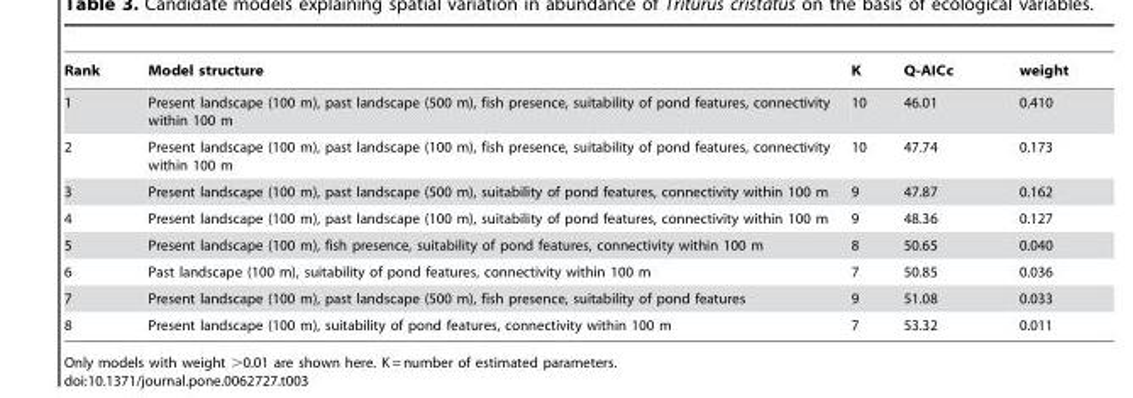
<table><thead><tr><td>Rank</td><td>Model structure</td><td>K</td><td>Q-AICc</td><td>weight</td></tr></thead><tbody><tr><td>1</td><td>Present landscape (100 m), past landscape (500 m), fish presence, suitability of pond features, connectivity within 100 m</td><td>10</td><td>46.01</td><td>0.410</td></tr><tr><td>2</td><td>Present landscape (100 m), past landscape (100 m), fish presence, suitability of pond features, connectivity within 100 m</td><td>10</td><td>47.74</td><td>0.173</td></tr><tr><td>3</td><td>Present landscape (100 m), past landscape (500 m), suitability of pond features, connectivity within 100 m</td><td>9</td><td>47.87</td><td>0.162</td></tr><tr><td>4</td><td>Present landscape (100 m), past landscape (100 m), suitability of pond features, connectivity within 100 m</td><td>9</td><td>48.36</td><td>0.127</td></tr><tr><td>5</td><td>Present landscape (100 m), fish presence, suitability of pond features, connectivity within 100 m</td><td>8</td><td>50.65</td><td>0.040</td></tr><tr><td>6</td><td>Past landscape (100 m), suitability of pond features, connectivity within 100 m</td><td>7</td><td>50.85</td><td>0.036</td></tr><tr><td>7</td><td>Present landscape (100 m), past landscape (500 m), fish presence, suitability of pond features</td><td>9</td><td>51.08</td><td>0.033</td></tr><tr><td>8</td><td>Present landscape (100 m), suitability of pond features, connectivity within 100 m</td><td>7</td><td>53.32</td><td>0.011</td></tr></tbody></table>